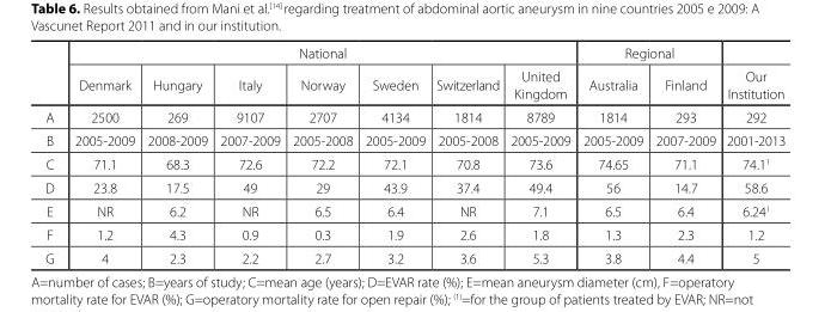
<table><thead><tr><td rowspan="2"></td><td colspan="7">National</td><td colspan="2">Regional</td><td rowspan="2">Our Institution</td></tr><tr><td>Denmark</td><td>Hungary</td><td>Italy</td><td>Norway</td><td>Sweden</td><td>Switzerland</td><td>United Kingdom</td><td>Australia</td><td>Finland</td></tr></thead><tbody><tr><td>A</td><td>2500</td><td>269</td><td>9107</td><td>2707</td><td>4134</td><td>1814</td><td>8789</td><td>1814</td><td>293</td><td>292</td></tr><tr><td>B</td><td>2005-2009</td><td>2008-2009</td><td>2007-2009</td><td>2005-2008</td><td>2005-2009</td><td>2005-2008</td><td>2005-2009</td><td>2005-2009</td><td>2007-2009</td><td>2001-2013</td></tr><tr><td>C</td><td>71.1</td><td>68.3</td><td>72.6</td><td>72.2</td><td>72.1</td><td>70.8</td><td>73.6</td><td>74.65</td><td>71.1</td><td>74.11</td></tr><tr><td>D</td><td>23.8</td><td>17.5</td><td>49</td><td>29</td><td>43.9</td><td>37.4</td><td>49.4</td><td>56</td><td>14.7</td><td>58.6</td></tr><tr><td>E</td><td>NR</td><td>6.2</td><td>NR</td><td>6.5</td><td>6.4</td><td>NR</td><td>7.1</td><td>6.5</td><td>6.4</td><td>6.241</td></tr><tr><td>F</td><td>1.2</td><td>4.3</td><td>0.9</td><td>0.3</td><td>1.9</td><td>2.6</td><td>1.8</td><td>1.3</td><td>2.3</td><td>1.2</td></tr><tr><td>G</td><td>4</td><td>2.3</td><td>2.2</td><td>2.7</td><td>3.2</td><td>3.6</td><td>5.3</td><td>3.8</td><td>4.4</td><td>5</td></tr></tbody></table>